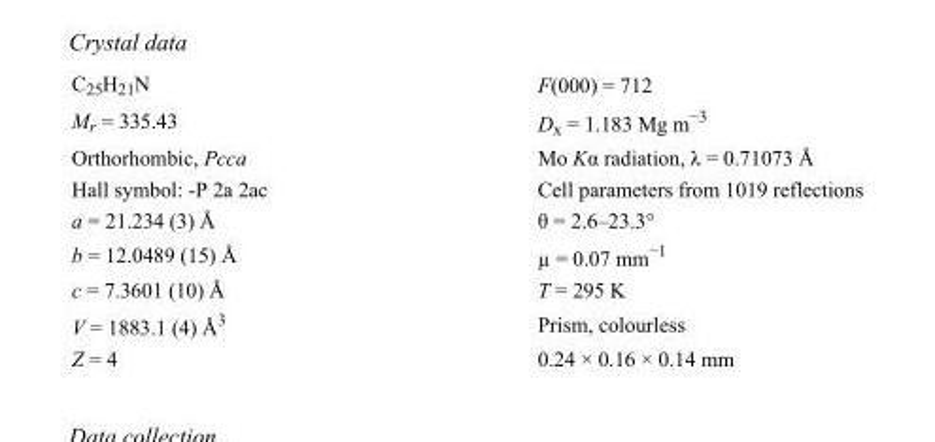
<table><tbody><tr><td>C<sub>25</sub>H<sub>21</sub>N</td><td>F(000) = 712</td></tr><tr><td>M<sub>r</sub> = 335.43</td><td>D<sub>x</sub> = 1.183 Mg m<sup>−3</sup></td></tr><tr><td>Orthorhombic, Pcca</td><td>Mo Kα radiation, λ = 0.71073 Å</td></tr><tr><td>Hall symbol: -P 2a 2ac</td><td>Cell parameters from 1019 reflections</td></tr><tr><td>a = 21.234 (3) Å</td><td>θ = 2.6–23.3°</td></tr><tr><td>b = 12.0489 (15) Å</td><td>µ = 0.07 mm<sup>−1</sup></td></tr><tr><td>c = 7.3601 (10) Å</td><td>T = 295 K</td></tr><tr><td>V = 1883.1 (4) Å<sup>3</sup></td><td>Prism, colourless</td></tr><tr><td>Z = 4</td><td>0.24 × 0.16 × 0.14 mm</td></tr></tbody></table>